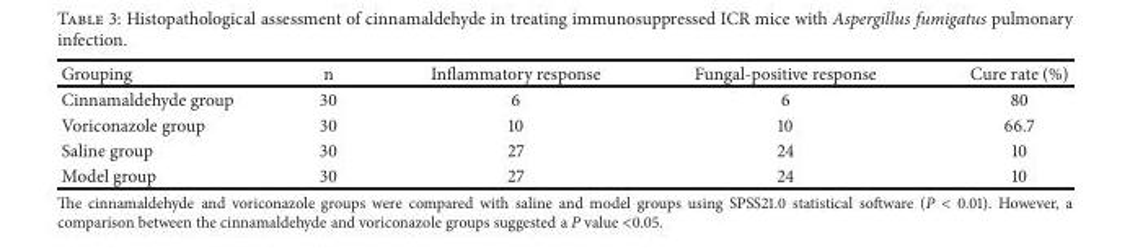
<table><thead><tr><td>Grouping</td><td>n</td><td>Inflammatory response</td><td>Fungal-positive response</td><td>Cure rate (%)</td></tr></thead><tbody><tr><td>Cinnamaldehyde group</td><td>30</td><td>6</td><td>6</td><td>80</td></tr><tr><td>Voriconazole group</td><td>30</td><td>10</td><td>10</td><td>66.7</td></tr><tr><td>Saline group</td><td>30</td><td>27</td><td>24</td><td>10</td></tr><tr><td>Model group</td><td>30</td><td>27</td><td>24</td><td>10</td></tr></tbody></table>